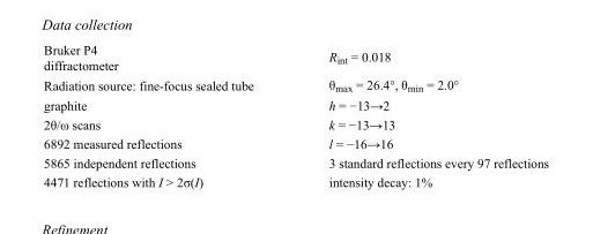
<table><tbody><tr><td>Bruker P4 diffractometer</td><td>R<sub>int</sub> = 0.018</td></tr><tr><td>Radiation source: fine-focus sealed tube</td><td>θ<sub>max</sub> = 26.4°, θ<sub>min</sub> = 2.0°</td></tr><tr><td>graphite</td><td>h = −13→2</td></tr><tr><td>2θ/ω scans</td><td>k = −13→13</td></tr><tr><td>6892 measured reflections</td><td>l = −16→16</td></tr><tr><td>5865 independent reflections</td><td>3 standard reflections every 97 reflections</td></tr><tr><td>4471 reflections with I &gt; 2σ(I)</td><td>intensity decay: 1%</td></tr></tbody></table>